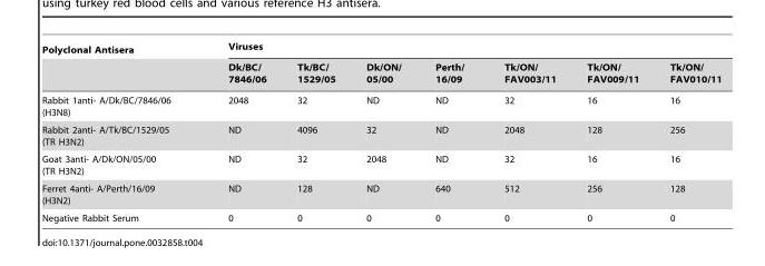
<table><thead><tr><td rowspan="2">Polyclonal Antisera</td><td colspan="7">Viruses</td></tr><tr><td>Dk/BC/ 7846/06</td><td>Tk/BC/ 1529/05</td><td>Dk/ON/ 05/00</td><td>Perth/ 16/09</td><td>Tk/ON/ FAV003/11</td><td>Tk/ON/ FAV009/11</td><td>Tk/ON/ FAV010/11</td></tr></thead><tbody><tr><td>Rabbit 1anti- A/Dk/BC/7846/06 (H3N8)</td><td>2048</td><td>32</td><td>ND</td><td>ND</td><td>32</td><td>16</td><td>16</td></tr><tr><td>Rabbit 2anti- A/Tk/BC/1529/05 (TR H3N2)</td><td>ND</td><td>4096</td><td>32</td><td>ND</td><td>2048</td><td>128</td><td>256</td></tr><tr><td>Goat 3anti- A/Dk/ON/05/00 (TR H3N2)</td><td>ND</td><td>32</td><td>2048</td><td>ND</td><td>32</td><td>16</td><td>16</td></tr><tr><td>Ferret 4anti- A/Perth/16/09 (H3N2)</td><td>ND</td><td>128</td><td>ND</td><td>640</td><td>512</td><td>256</td><td>128</td></tr><tr><td>Negative Rabbit Serum</td><td>0</td><td>0</td><td>0</td><td>0</td><td>0</td><td>0</td><td>0</td></tr></tbody></table>